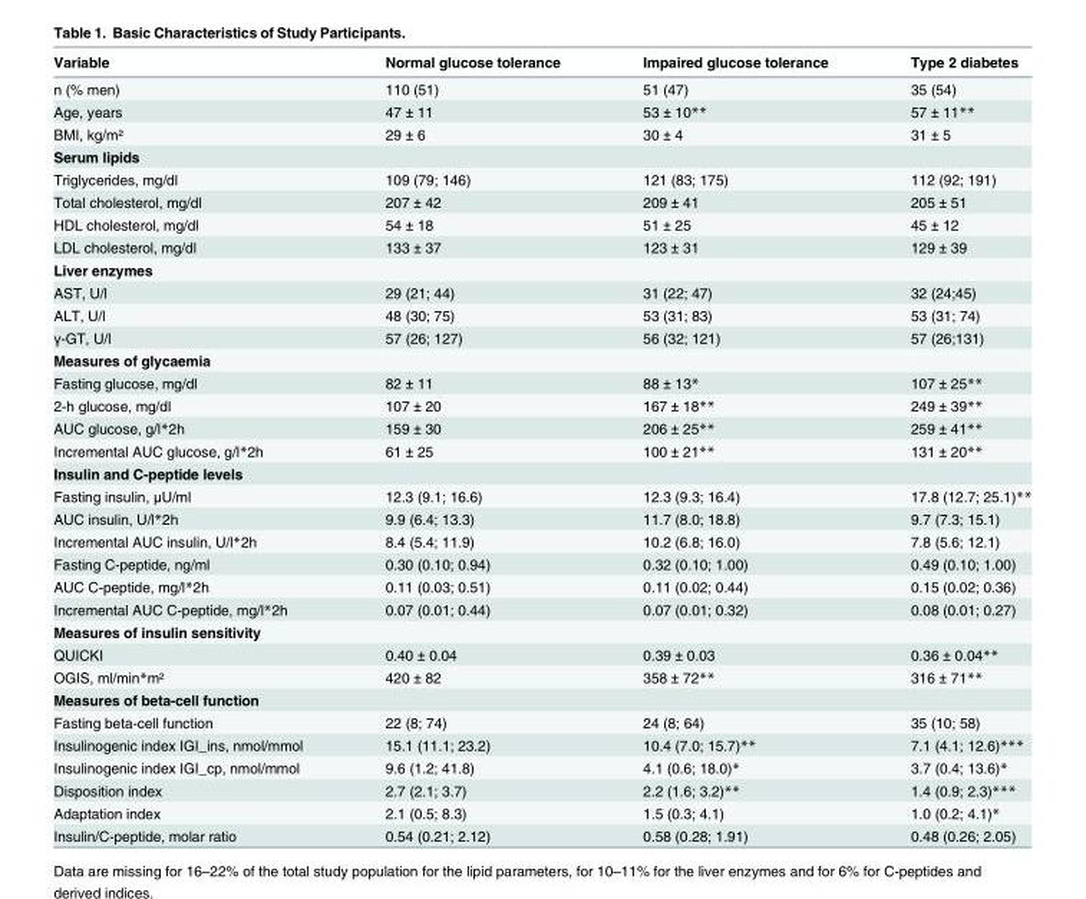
<table><thead><tr><td>Variable</td><td>Normal glucose tolerance</td><td>Impaired glucose tolerance</td><td>Type 2 diabetes</td></tr></thead><tbody><tr><td>n (% men)</td><td>110 (51)</td><td>51 (47)</td><td>35 (54)</td></tr><tr><td>Age, years</td><td>47 ± 11</td><td>53 ± 10**</td><td>57 ± 11**</td></tr><tr><td>BMI, kg/m²</td><td>29 ± 6</td><td>30 ± 4</td><td>31 ± 5</td></tr><tr><td colspan="4">Serum lipids</td></tr><tr><td>Triglycerides, mg/dl</td><td>109 (79; 146)</td><td>121 (83; 175)</td><td>112 (92; 191)</td></tr><tr><td>Total cholesterol, mg/dl</td><td>207 ± 42</td><td>209 ± 41</td><td>205 ± 51</td></tr><tr><td>HDL cholesterol, mg/dl</td><td>54 ± 18</td><td>51 ± 25</td><td>45 ± 12</td></tr><tr><td>LDL cholesterol, mg/dl</td><td>133 ± 37</td><td>123 ± 31</td><td>129 ± 39</td></tr><tr><td colspan="4">Liver enzymes</td></tr><tr><td>AST, U/l</td><td>29 (21; 44)</td><td>31 (22; 47)</td><td>32 (24;45)</td></tr><tr><td>ALT, U/l</td><td>48 (30; 75)</td><td>53 (31; 83)</td><td>53 (31; 74)</td></tr><tr><td>γ-GT, U/l</td><td>57 (26; 127)</td><td>56 (32; 121)</td><td>57 (26;131)</td></tr><tr><td colspan="4">Measures of glycaemia</td></tr><tr><td>Fasting glucose, mg/dl</td><td>82 ± 11</td><td>88 ± 13*</td><td>107 ± 25**</td></tr><tr><td>2-h glucose, mg/dl</td><td>107 ± 20</td><td>167 ± 18**</td><td>249 ± 39**</td></tr><tr><td>AUC glucose, g/l*2h</td><td>159 ± 30</td><td>206 ± 25**</td><td>259 ± 41**</td></tr><tr><td>Incremental AUC glucose, g/l*2h</td><td>61 ± 25</td><td>100 ± 21**</td><td>131 ± 20**</td></tr><tr><td colspan="4">Insulin and C-peptide levels</td></tr><tr><td>Fasting insulin, μU/ml</td><td>12.3 (9.1; 16.6)</td><td>12.3 (9.3; 16.4)</td><td>17.8 (12.7; 25.1)**</td></tr><tr><td>AUC insulin, U/l*2h</td><td>9.9 (6.4; 13.3)</td><td>11.7 (8.0; 18.8)</td><td>9.7 (7.3; 15.1)</td></tr><tr><td>Incremental AUC insulin, U/l*2h</td><td>8.4 (5.4; 11.9)</td><td>10.2 (6.8; 16.0)</td><td>7.8 (5.6; 12.1)</td></tr><tr><td>Fasting C-peptide, ng/ml</td><td>0.30 (0.10; 0.94)</td><td>0.32 (0.10; 1.00)</td><td>0.49 (0.10; 1.00)</td></tr><tr><td>AUC C-peptide, mg/l*2h</td><td>0.11 (0.03; 0.51)</td><td>0.11 (0.02; 0.44)</td><td>0.15 (0.02; 0.36)</td></tr><tr><td>Incremental AUC C-peptide, mg/l*2h</td><td>0.07 (0.01; 0.44)</td><td>0.07 (0.01; 0.32)</td><td>0.08 (0.01; 0.27)</td></tr><tr><td colspan="4">Measures of insulin sensitivity</td></tr><tr><td>QUICKI</td><td>0.40 ± 0.04</td><td>0.39 ± 0.03</td><td>0.36 ± 0.04**</td></tr><tr><td>OGIS, ml/min*m²</td><td>420 ± 82</td><td>358 ± 72**</td><td>316 ± 71**</td></tr><tr><td colspan="4">Measures of beta-cell function</td></tr><tr><td>Fasting beta-cell function</td><td>22 (8; 74)</td><td>24 (8; 64)</td><td>35 (10; 58)</td></tr><tr><td>Insulinogenic index IGI_ins, nmol/mmol</td><td>15.1 (11.1; 23.2)</td><td>10.4 (7.0; 15.7)**</td><td>7.1 (4.1; 12.6)***</td></tr><tr><td>Insulinogenic index IGI_cp, nmol/mmol</td><td>9.6 (1.2; 41.8)</td><td>4.1 (0.6; 18.0)*</td><td>3.7 (0.4; 13.6)*</td></tr><tr><td>Disposition index</td><td>2.7 (2.1; 3.7)</td><td>2.2 (1.6; 3.2)**</td><td>1.4 (0.9; 2.3)***</td></tr><tr><td>Adaptation index</td><td>2.1 (0.5; 8.3)</td><td>1.5 (0.3; 4.1)</td><td>1.0 (0.2; 4.1)*</td></tr><tr><td>Insulin/C-peptide, molar ratio</td><td>0.54 (0.21; 2.12)</td><td>0.58 (0.28; 1.91)</td><td>0.48 (0.26; 2.05)</td></tr></tbody></table>